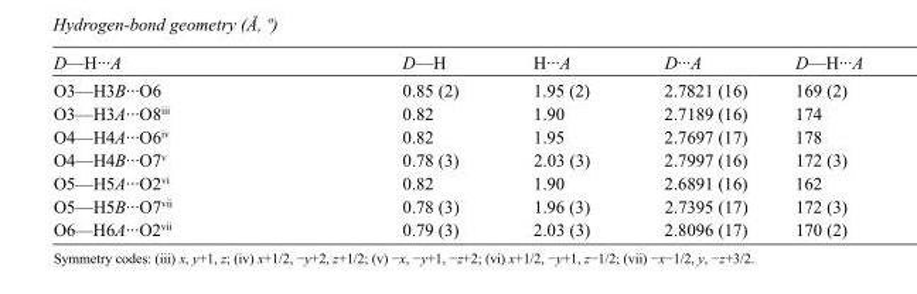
<table><tbody><tr><td>D—H···A</td><td>D—H</td><td>H···A</td><td>D···A</td><td>D—H···A</td></tr><tr><td>O3—H3B···O6</td><td>0.85 (2)</td><td>1.95 (2)</td><td>2.7821 (16)</td><td>169 (2)</td></tr><tr><td>O3—H3A···O8<sup>iii</sup></td><td>0.82</td><td>1.90</td><td>2.7189 (16)</td><td>174</td></tr><tr><td>O4—H4A···O6<sup>iv</sup></td><td>0.82</td><td>1.95</td><td>2.7697 (17)</td><td>178</td></tr><tr><td>O4—H4B···O7<sup>v</sup></td><td>0.78 (3)</td><td>2.03 (3)</td><td>2.7997 (16)</td><td>172 (3)</td></tr><tr><td>O5—H5A···O2<sup>vi</sup></td><td>0.82</td><td>1.90</td><td>2.6891 (16)</td><td>162</td></tr><tr><td>O5—H5B···O7<sup>vii</sup></td><td>0.78 (3)</td><td>1.96 (3)</td><td>2.7395 (17)</td><td>172 (3)</td></tr><tr><td>O6—H6A···O2<sup>vii</sup></td><td>0.79 (3)</td><td>2.03 (3)</td><td>2.8096 (17)</td><td>170 (2)</td></tr></tbody></table>